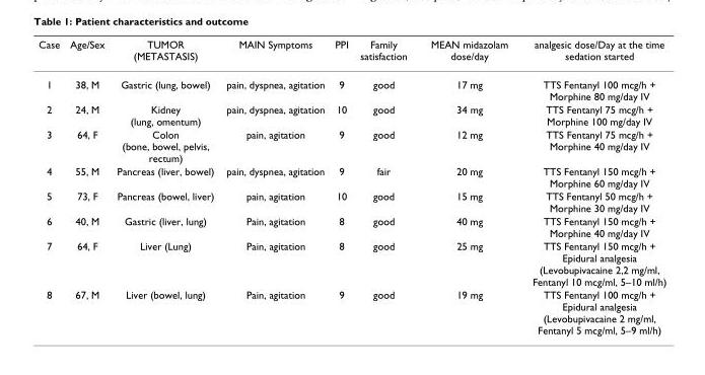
<table><thead><tr><td>Case</td><td>Age/Sex</td><td>TUMOR (METASTASIS)</td><td>MAIN Symptoms</td><td>PPI</td><td>Family satisfaction</td><td>MEAN midazolam dose/day</td><td>analgesic dose/Day at the time sedation started</td></tr></thead><tbody><tr><td>1</td><td>38, M</td><td>Gastric (lung, bowel)</td><td>pain, dyspnea, agitation</td><td>9</td><td>good</td><td>17 mg</td><td>TTS Fentanyl 100 mcg/h + Morphine 80 mg/day IV</td></tr><tr><td>2</td><td>24, M</td><td>Kidney (lung, omentum)</td><td>pain, dyspnea, agitation</td><td>10</td><td>good</td><td>34 mg</td><td>TTS Fentanyl 75 mcg/h + Morphine 100 mg/day IV</td></tr><tr><td>3</td><td>64, F</td><td>Colon (bone, bowel, pelvis, rectum)</td><td>pain, agitation</td><td>9</td><td>good</td><td>12 mg</td><td>TTS Fentanyl 75 mcg/h + Morphine 40 mg/day IV</td></tr><tr><td>4</td><td>55, M</td><td>Pancreas (liver, bowel)</td><td>pain, dyspnea, agitation</td><td>9</td><td>fair</td><td>20 mg</td><td>TTS Fentanyl 150 mcg/h + Morphine 60 mg/day IV</td></tr><tr><td>5</td><td>73, F</td><td>Pancreas (bowel, liver)</td><td>pain, agitation</td><td>10</td><td>good</td><td>15 mg</td><td>TTS Fentanyl 50 mcg/h + Morphine 30 mg/day IV</td></tr><tr><td>6</td><td>40, M</td><td>Gastric (liver, lung)</td><td>Pain, agitation</td><td>8</td><td>good</td><td>40 mg</td><td>TTS Fentanyl 150 mcg/h + Morphine 40 mg/day IV</td></tr><tr><td>7</td><td>64, F</td><td>Liver (Lung)</td><td>Pain, agitation</td><td>8</td><td>good</td><td>25 mg</td><td>TTS Fentanyl 150 mcg/h + Epidural analgesia (Levobupivacaine 2,2 mg/ml, Fentanyl 10 mcg/ml, 5–10 ml/h)</td></tr><tr><td>8</td><td>67, M</td><td>Liver (bowel, lung)</td><td>Pain, agitation</td><td>9</td><td>good</td><td>19 mg</td><td>TTS Fentanyl 100 mcg/h + Epidural analgesia (Levobupivacaine 2 mg/ml, Fentanyl 5 mcg/ml, 5–9 ml/h)</td></tr></tbody></table>